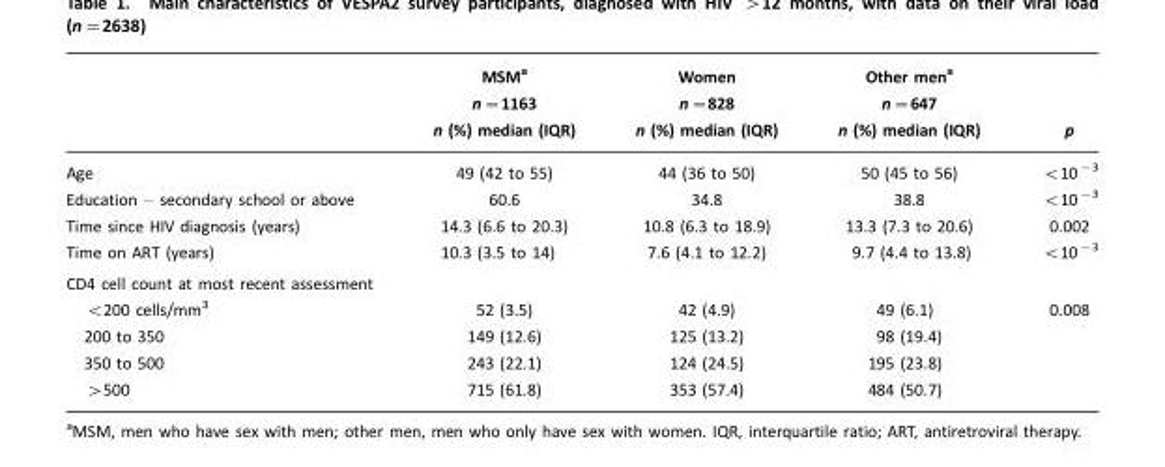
<table><thead><tr><td></td><td>MSM<sup>a</sup> n=1163 n (%) median (IQR)</td><td>Women n=828 n (%) median (IQR)</td><td>Other men<sup>a</sup> n=647 n (%) median (IQR)</td><td>p</td></tr></thead><tbody><tr><td>Age</td><td>49 (42 to 55)</td><td>44 (36 to 50)</td><td>50 (45 to 56)</td><td>&lt;10<sup>−3</sup></td></tr><tr><td>Education – secondary school or above</td><td>60.6</td><td>34.8</td><td>38.8</td><td>&lt;10<sup>−3</sup></td></tr><tr><td>Time since HIV diagnosis (years)</td><td>14.3 (6.6 to 20.3)</td><td>10.8 (6.3 to 18.9)</td><td>13.3 (7.3 to 20.6)</td><td>0.002</td></tr><tr><td>Time on ART (years)</td><td>10.3 (3.5 to 14)</td><td>7.6 (4.1 to 12.2)</td><td>9.7 (4.4 to 13.8)</td><td>&lt;10<sup>−3</sup></td></tr><tr><td colspan="5">CD4 cell count at most recent assessment</td></tr><tr><td>&lt;200 cells/mm<sup>3</sup></td><td>52 (3.5)</td><td>42 (4.9)</td><td>49 (6.1)</td><td>0.008</td></tr><tr><td>200 to 350</td><td>149 (12.6)</td><td>125 (13.2)</td><td>98 (19.4)</td><td></td></tr><tr><td>350 to 500</td><td>243 (22.1)</td><td>124 (24.5)</td><td>195 (23.8)</td><td></td></tr><tr><td>&gt;500</td><td>715 (61.8)</td><td>353 (57.4)</td><td>484 (50.7)</td><td></td></tr></tbody></table>